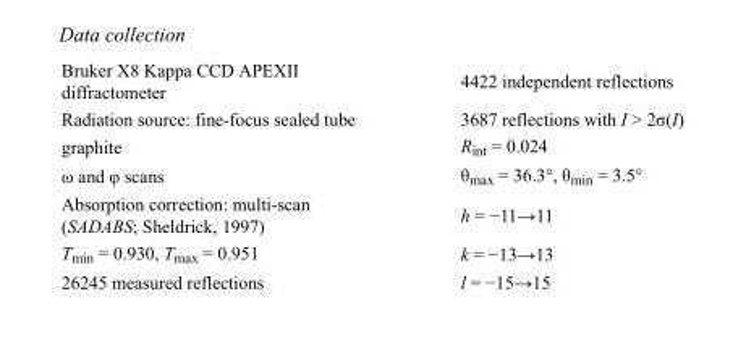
<table><tbody><tr><td>Bruker X8 Kappa CCD APEXII diffractometer</td><td>4422 independent reflections</td></tr><tr><td>Radiation source: fine-focus sealed tube</td><td>3687 reflections with I &gt; 2σ(I)</td></tr><tr><td>graphite</td><td>R<sub>int</sub> = 0.024</td></tr><tr><td>ω and φ scans</td><td>θ<sub>max</sub> = 36.3°, θ<sub>min</sub> = 3.5°</td></tr><tr><td>Absorption correction: multi-scan (SADABS; Sheldrick, 1997)</td><td>h = −11→11</td></tr><tr><td>T<sub>min</sub> = 0.930, T<sub>max</sub> = 0.951</td><td>k = −13→13</td></tr><tr><td>26245 measured reflections</td><td>l = −15→15</td></tr></tbody></table>